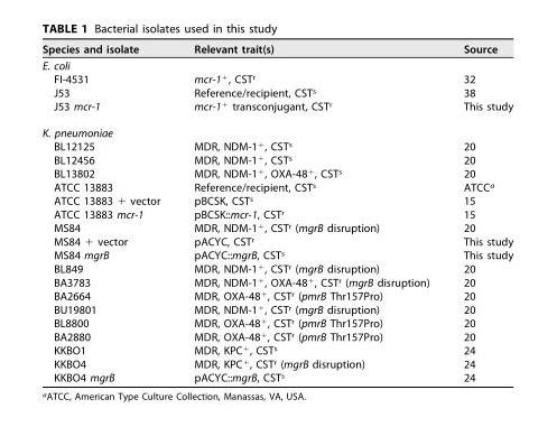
<table><thead><tr><td>Species and isolate</td><td>Relevant trait(s)</td><td>Source</td></tr></thead><tbody><tr><td colspan="3">E. coli</td></tr><tr><td>FI-4531</td><td>mcr-1<sup>+</sup>, CST<sup>r</sup></td><td>32</td></tr><tr><td>J53</td><td>Reference/recipient, CST<sup>s</sup></td><td>38</td></tr><tr><td>J53 mcr-1</td><td>mcr-1<sup>+</sup> transconjugant, CST<sup>r</sup></td><td>This study</td></tr><tr><td colspan="3">K. pneumoniae</td></tr><tr><td>BL12125</td><td>MDR, NDM-1<sup>+</sup>, CST<sup>s</sup></td><td>20</td></tr><tr><td>BL12456</td><td>MDR, NDM-1<sup>+</sup>, CST<sup>s</sup></td><td>20</td></tr><tr><td>BL13802</td><td>MDR, NDM-1<sup>+</sup>, OXA-48<sup>+</sup>, CST<sup>s</sup></td><td>20</td></tr><tr><td>ATCC 13883</td><td>Reference/recipient, CST<sup>s</sup></td><td>ATCC<sup>a</sup></td></tr><tr><td>ATCC 13883 + vector</td><td>pBCSK, CST<sup>s</sup></td><td>15</td></tr><tr><td>ATCC 13883 mcr-1</td><td>pBCSK::mcr-1, CST<sup>r</sup></td><td>15</td></tr><tr><td>MS84</td><td>MDR, NDM-1<sup>+</sup>, CST<sup>r</sup> (mgrB disruption)</td><td>20</td></tr><tr><td>MS84 + vector</td><td>pACYC, CST<sup>r</sup></td><td>This study</td></tr><tr><td>MS84 mgrB</td><td>pACYC::mgrB, CST<sup>s</sup></td><td>This study</td></tr><tr><td>BL849</td><td>MDR, NDM-1<sup>+</sup>, CST<sup>r</sup> (mgrB disruption)</td><td>20</td></tr><tr><td>BA3783</td><td>MDR, NDM-1<sup>+</sup>, OXA-48<sup>+</sup>, CST<sup>r</sup> (mgrB disruption)</td><td>20</td></tr><tr><td>BA2664</td><td>MDR, OXA-48<sup>+</sup>, CST<sup>r</sup> (pmrB Thr157Pro)</td><td>20</td></tr><tr><td>BU19801</td><td>MDR, NDM-1<sup>+</sup>, CST<sup>r</sup> (mgrB disruption)</td><td>20</td></tr><tr><td>BL8800</td><td>MDR, OXA-48<sup>+</sup>, CST<sup>r</sup> (pmrB Thr157Pro)</td><td>20</td></tr><tr><td>BA2880</td><td>MDR, OXA-48<sup>+</sup>, CST<sup>r</sup> (pmrB Thr157Pro)</td><td>20</td></tr><tr><td>KKBO1</td><td>MDR, KPC<sup>+</sup>, CST<sup>s</sup></td><td>24</td></tr><tr><td>KKBO4</td><td>MDR, KPC<sup>+</sup>, CST<sup>r</sup> (mgrB disruption)</td><td>24</td></tr><tr><td>KKBO4 mgrB</td><td>pACYC::mgrB, CST<sup>s</sup></td><td>24</td></tr></tbody></table>